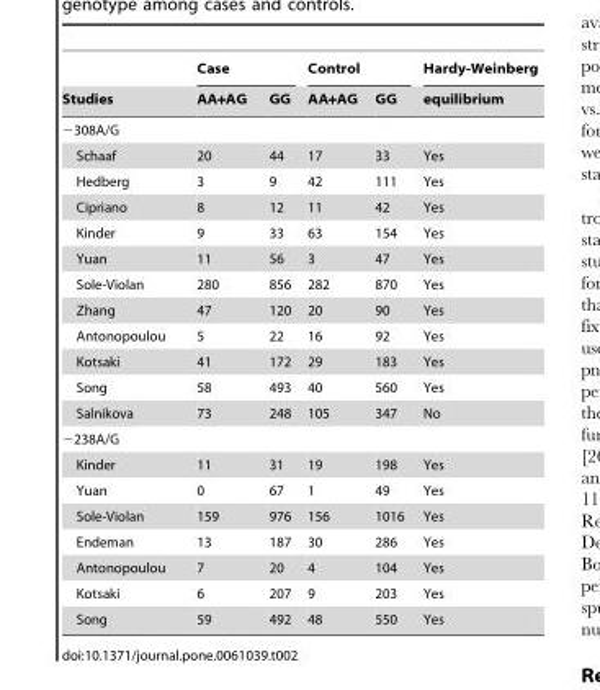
<table><thead><tr><td rowspan="2">Studies</td><td colspan="2">Case</td><td colspan="2">Control</td><td rowspan="2">Hardy-Weinberg equilibrium</td></tr><tr><td>AA+AG</td><td>GG</td><td>AA+AG</td><td>GG</td></tr></thead><tbody><tr><td colspan="6">−308A/G</td></tr><tr><td>Schaaf</td><td>20</td><td>44</td><td>17</td><td>33</td><td>Yes</td></tr><tr><td>Hedberg</td><td>3</td><td>9</td><td>42</td><td>111</td><td>Yes</td></tr><tr><td>Cipriano</td><td>8</td><td>12</td><td>11</td><td>42</td><td>Yes</td></tr><tr><td>Kinder</td><td>9</td><td>33</td><td>63</td><td>154</td><td>Yes</td></tr><tr><td>Yuan</td><td>11</td><td>56</td><td>3</td><td>47</td><td>Yes</td></tr><tr><td>Sole-Violan</td><td>280</td><td>856</td><td>282</td><td>870</td><td>Yes</td></tr><tr><td>Zhang</td><td>47</td><td>120</td><td>20</td><td>90</td><td>Yes</td></tr><tr><td>Antonopoulou</td><td>5</td><td>22</td><td>16</td><td>92</td><td>Yes</td></tr><tr><td>Kotsaki</td><td>41</td><td>172</td><td>29</td><td>183</td><td>Yes</td></tr><tr><td>Song</td><td>58</td><td>493</td><td>40</td><td>560</td><td>Yes</td></tr><tr><td>Salnikova</td><td>73</td><td>248</td><td>105</td><td>347</td><td>No</td></tr><tr><td colspan="6">−238A/G</td></tr><tr><td>Kinder</td><td>11</td><td>31</td><td>19</td><td>198</td><td>Yes</td></tr><tr><td>Yuan</td><td>0</td><td>67</td><td>1</td><td>49</td><td>Yes</td></tr><tr><td>Sole-Violan</td><td>159</td><td>976</td><td>156</td><td>1016</td><td>Yes</td></tr><tr><td>Endeman</td><td>13</td><td>187</td><td>30</td><td>286</td><td>Yes</td></tr><tr><td>Antonopoulou</td><td>7</td><td>20</td><td>4</td><td>104</td><td>Yes</td></tr><tr><td>Kotsaki</td><td>6</td><td>207</td><td>9</td><td>203</td><td>Yes</td></tr><tr><td>Song</td><td>59</td><td>492</td><td>48</td><td>550</td><td>Yes</td></tr></tbody></table>